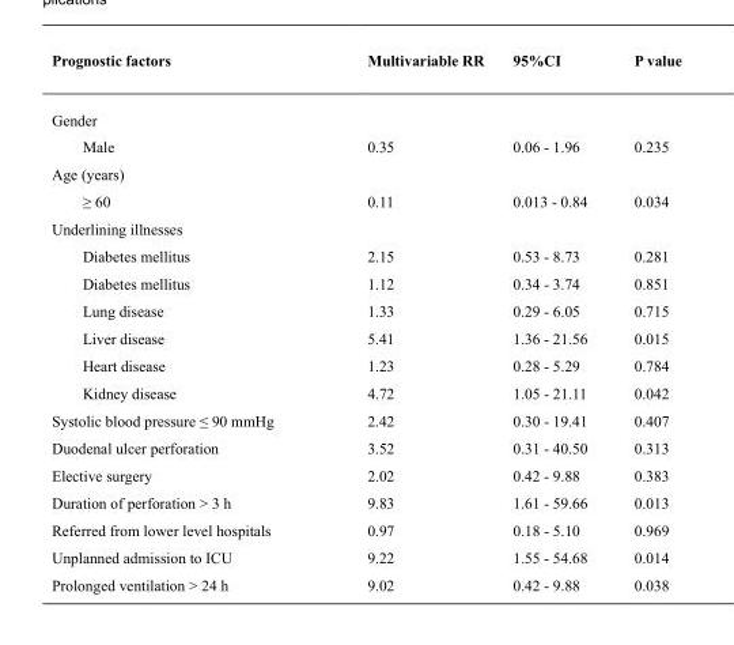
<table><thead><tr><td>Prognostic factors</td><td>Multivariable RR</td><td>95%CI</td><td>P value</td></tr></thead><tbody><tr><td colspan="4">Gender</td></tr><tr><td>Male</td><td>0.35</td><td>0.06 - 1.96</td><td>0.235</td></tr><tr><td colspan="4">Age (years)</td></tr><tr><td>≥ 60</td><td>0.11</td><td>0.013 - 0.84</td><td>0.034</td></tr><tr><td colspan="4">Underlining illnesses</td></tr><tr><td>Diabetes mellitus</td><td>2.15</td><td>0.53 - 8.73</td><td>0.281</td></tr><tr><td>Diabetes mellitus</td><td>1.12</td><td>0.34 - 3.74</td><td>0.851</td></tr><tr><td>Lung disease</td><td>1.33</td><td>0.29 - 6.05</td><td>0.715</td></tr><tr><td>Liver disease</td><td>5.41</td><td>1.36 - 21.56</td><td>0.015</td></tr><tr><td>Heart disease</td><td>1.23</td><td>0.28 - 5.29</td><td>0.784</td></tr><tr><td>Kidney disease</td><td>4.72</td><td>1.05 - 21.11</td><td>0.042</td></tr><tr><td>Systolic blood pressure ≤ 90 mmHg</td><td>2.42</td><td>0.30 - 19.41</td><td>0.407</td></tr><tr><td>Duodenal ulcer perforation</td><td>3.52</td><td>0.31 - 40.50</td><td>0.313</td></tr><tr><td>Elective surgery</td><td>2.02</td><td>0.42 - 9.88</td><td>0.383</td></tr><tr><td>Duration of perforation &gt; 3 h</td><td>9.83</td><td>1.61 - 59.66</td><td>0.013</td></tr><tr><td>Referred from lower level hospitals</td><td>0.97</td><td>0.18 - 5.10</td><td>0.969</td></tr><tr><td>Unplanned admission to ICU</td><td>9.22</td><td>1.55 - 54.68</td><td>0.014</td></tr><tr><td>Prolonged ventilation &gt; 24 h</td><td>9.02</td><td>0.42 - 9.88</td><td>0.038</td></tr></tbody></table>